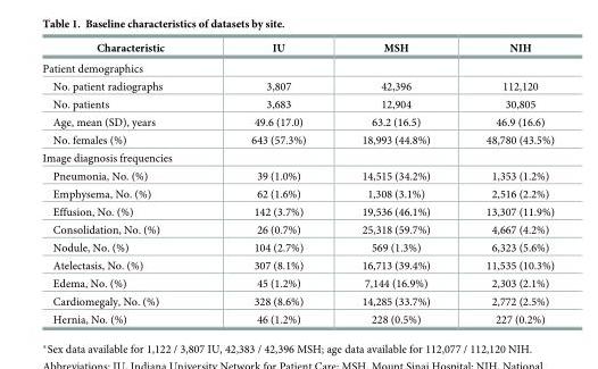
<table><thead><tr><td>Characteristic</td><td>IU</td><td>MSH</td><td>NIH</td></tr></thead><tbody><tr><td colspan="4">Patient demographics</td></tr><tr><td>No. patient radiographs</td><td>3,807</td><td>42,396</td><td>112,120</td></tr><tr><td>No. patients</td><td>3,683</td><td>12,904</td><td>30,805</td></tr><tr><td>Age, mean (SD), years</td><td>49.6 (17.0)</td><td>63.2 (16.5)</td><td>46.9 (16.6)</td></tr><tr><td>No. females (%)</td><td>643 (57.3%)</td><td>18,993 (44.8%)</td><td>48,780 (43.5%)</td></tr><tr><td colspan="4">Image diagnosis frequencies</td></tr><tr><td>Pneumonia, No. (%)</td><td>39 (1.0%)</td><td>14,515 (34.2%)</td><td>1,353 (1.2%)</td></tr><tr><td>Emphysema, No. (%)</td><td>62 (1.6%)</td><td>1,308 (3.1%)</td><td>2,516 (2.2%)</td></tr><tr><td>Effusion, No. (%)</td><td>142 (3.7%)</td><td>19,536 (46.1%)</td><td>13,307 (11.9%)</td></tr><tr><td>Consolidation, No. (%)</td><td>26 (0.7%)</td><td>25,318 (59.7%)</td><td>4,667 (4.2%)</td></tr><tr><td>Nodule, No. (%)</td><td>104 (2.7%)</td><td>569 (1.3%)</td><td>6,323 (5.6%)</td></tr><tr><td>Atelectasis, No. (%)</td><td>307 (8.1%)</td><td>16,713 (39.4%)</td><td>11,535 (10.3%)</td></tr><tr><td>Edema, No. (%)</td><td>45 (1.2%)</td><td>7,144 (16.9%)</td><td>2,303 (2.1%)</td></tr><tr><td>Cardiomegaly, No. (%)</td><td>328 (8.6%)</td><td>14,285 (33.7%)</td><td>2,772 (2.5%)</td></tr><tr><td>Hernia, No. (%)</td><td>46 (1.2%)</td><td>228 (0.5%)</td><td>227 (0.2%)</td></tr></tbody></table>